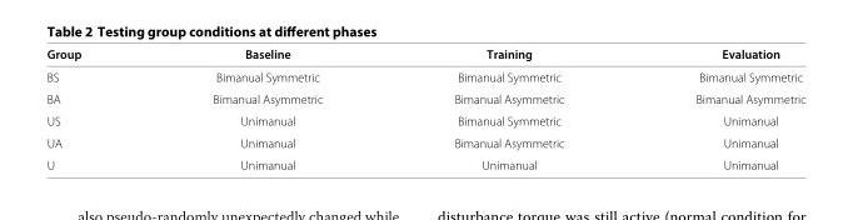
<table><thead><tr><td>Group</td><td>Baseline</td><td>Training</td><td>Evaluation</td></tr></thead><tbody><tr><td>BS</td><td>Bimanual Symmetric</td><td>Bimanual Symmetric</td><td>Bimanual Symmetric</td></tr><tr><td>BA</td><td>Bimanual Asymmetric</td><td>Bimanual Asymmetric</td><td>Bimanual Asymmetric</td></tr><tr><td>US</td><td>Unimanual</td><td>Bimanual Symmetric</td><td>Unimanual</td></tr><tr><td>UA</td><td>Unimanual</td><td>Bimanual Asymmetric</td><td>Unimanual</td></tr><tr><td>U</td><td>Unimanual</td><td>Unimanual</td><td>Unimanual</td></tr></tbody></table>